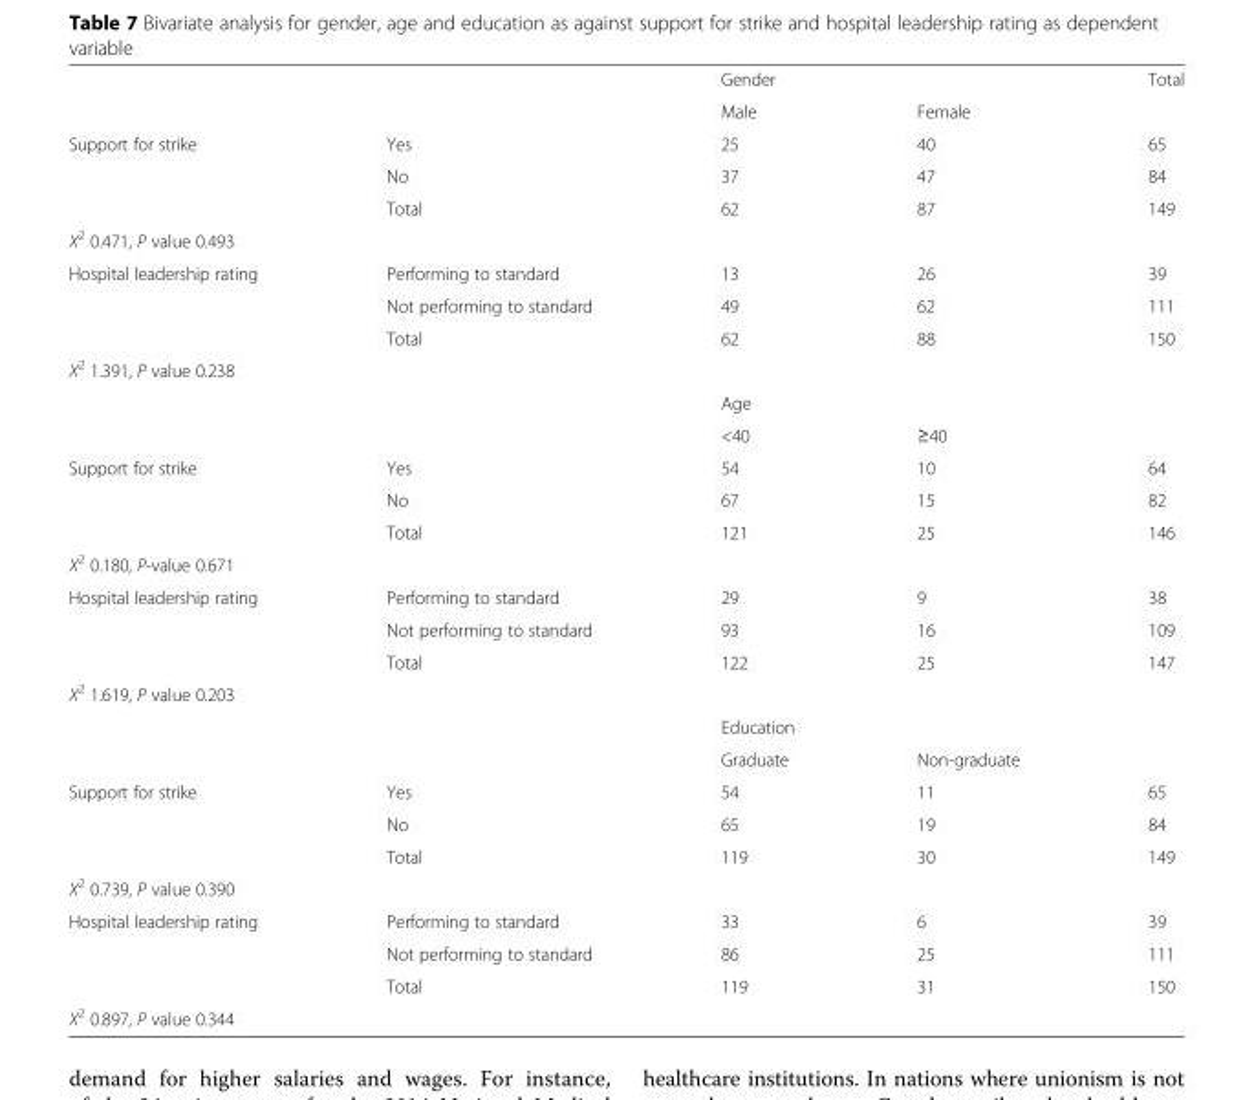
<table><thead><tr><td rowspan="2"></td><td rowspan="2"></td><td colspan="2">Gender</td><td rowspan="2">Total</td></tr><tr><td>Male</td><td>Female</td></tr></thead><tbody><tr><td rowspan="3">Support for strike</td><td>Yes</td><td>25</td><td>40</td><td>65</td></tr><tr><td>No</td><td>37</td><td>47</td><td>84</td></tr><tr><td>Total</td><td>62</td><td>87</td><td>149</td></tr><tr><td colspan="5">X<sup>2</sup> 0.471, P value 0.493</td></tr><tr><td rowspan="3">Hospital leadership rating</td><td>Performing to standard</td><td>13</td><td>26</td><td>39</td></tr><tr><td>Not performing to standard</td><td>49</td><td>62</td><td>111</td></tr><tr><td>Total</td><td>62</td><td>88</td><td>150</td></tr><tr><td colspan="5">X<sup>2</sup> 1.391, P value 0.238</td></tr><tr><td rowspan="2" colspan="2"></td><td colspan="2">Age</td><td rowspan="2"></td></tr><tr><td>&lt;40</td><td>≥40</td></tr><tr><td rowspan="3">Support for strike</td><td>Yes</td><td>54</td><td>10</td><td>64</td></tr><tr><td>No</td><td>67</td><td>15</td><td>82</td></tr><tr><td>Total</td><td>121</td><td>25</td><td>146</td></tr><tr><td colspan="5">X<sup>2</sup> 0.180, P-value 0.671</td></tr><tr><td rowspan="3">Hospital leadership rating</td><td>Performing to standard</td><td>29</td><td>9</td><td>38</td></tr><tr><td>Not performing to standard</td><td>93</td><td>16</td><td>109</td></tr><tr><td>Total</td><td>122</td><td>25</td><td>147</td></tr><tr><td colspan="5">X<sup>2</sup> 1.619, P value 0.203</td></tr><tr><td rowspan="2" colspan="2"></td><td colspan="2">Education</td><td rowspan="2"></td></tr><tr><td>Graduate</td><td>Non-graduate</td></tr><tr><td rowspan="3">Support for strike</td><td>Yes</td><td>54</td><td>11</td><td>65</td></tr><tr><td>No</td><td>65</td><td>19</td><td>84</td></tr><tr><td>Total</td><td>119</td><td>30</td><td>149</td></tr><tr><td colspan="5">X<sup>2</sup> 0.739, P value 0.390</td></tr><tr><td rowspan="3">Hospital leadership rating</td><td>Performing to standard</td><td>33</td><td>6</td><td>39</td></tr><tr><td>Not performing to standard</td><td>86</td><td>25</td><td>111</td></tr><tr><td>Total</td><td>119</td><td>31</td><td>150</td></tr><tr><td>X<sup>2</sup> 0.897, P value 0.344</td><td></td><td></td><td></td><td></td></tr></tbody></table>